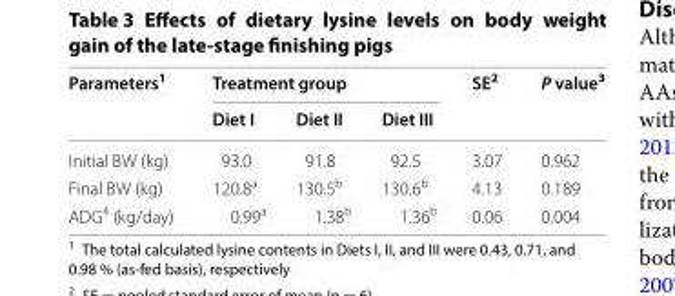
<table><thead><tr><td rowspan="2">Parameters<sup>1</sup></td><td colspan="3">Treatment group</td><td rowspan="2">SE<sup>2</sup></td><td rowspan="2">P value<sup>3</sup></td></tr><tr><td>Diet I</td><td>Diet II</td><td>Diet III</td></tr></thead><tbody><tr><td>Initial BW (kg)</td><td>93.0</td><td>91.8</td><td>92.5</td><td>3.07</td><td>0.962</td></tr><tr><td>Final BW (kg)</td><td>120.8<sup>a</sup></td><td>130.5<sup>b</sup></td><td>130.6<sup>b</sup></td><td>4.13</td><td>0.189</td></tr><tr><td>ADG<sup>4</sup> (kg/day)</td><td>0.99<sup>a</sup></td><td>1.38<sup>b</sup></td><td>1.36<sup>b</sup></td><td>0.06</td><td>0.004</td></tr></tbody></table>